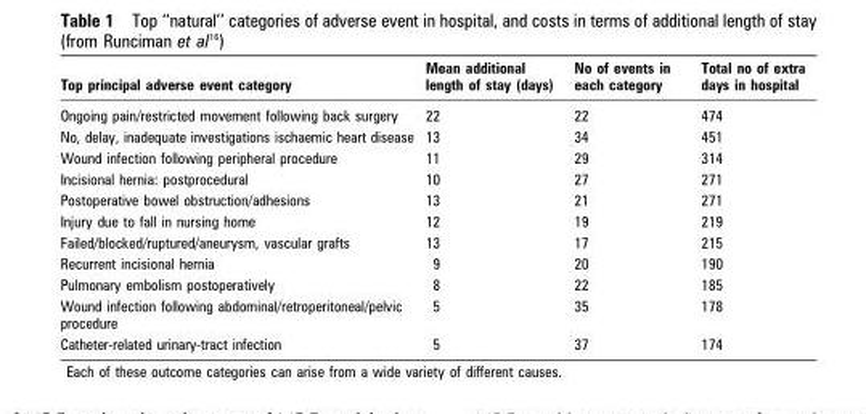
<table><thead><tr><td>Top principal adverse event category</td><td>Mean additional length of stay (days)</td><td>No of events in each category</td><td>Total no of extra days in hospital</td></tr></thead><tbody><tr><td>Ongoing pain/restricted movement following back surgery</td><td>22</td><td>22</td><td>474</td></tr><tr><td>No, delay, inadequate investigations ischaemic heart disease</td><td>13</td><td>34</td><td>451</td></tr><tr><td>Wound infection following peripheral procedure</td><td>11</td><td>29</td><td>314</td></tr><tr><td>Incisional hernia: postprocedural</td><td>10</td><td>27</td><td>271</td></tr><tr><td>Postoperative bowel obstruction/adhesions</td><td>13</td><td>21</td><td>271</td></tr><tr><td>Injury due to fall in nursing home</td><td>12</td><td>19</td><td>219</td></tr><tr><td>Failed/blocked/ruptured/aneurysm, vascular grafts</td><td>13</td><td>17</td><td>215</td></tr><tr><td>Recurrent incisional hernia</td><td>9</td><td>20</td><td>190</td></tr><tr><td>Pulmonary embolism postoperatively</td><td>8</td><td>22</td><td>185</td></tr><tr><td>Wound infection following abdominal/retroperitoneal/pelvic procedure</td><td>5</td><td>35</td><td>178</td></tr><tr><td>Catheter-related urinary-tract infection</td><td>5</td><td>37</td><td>174</td></tr></tbody></table>